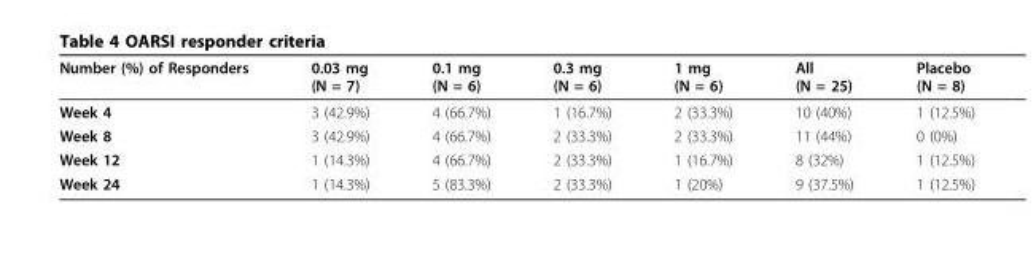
<table><thead><tr><td>Number (%) of Responders</td><td>0.03 mg (N = 7)</td><td>0.1 mg (N = 6)</td><td>0.3 mg (N = 6)</td><td>1 mg (N = 6)</td><td>All (N = 25)</td><td>Placebo (N = 8)</td></tr></thead><tbody><tr><td>Week 4</td><td>3 (42.9%)</td><td>4 (66.7%)</td><td>1 (16.7%)</td><td>2 (33.3%)</td><td>10 (40%)</td><td>1 (12.5%)</td></tr><tr><td>Week 8</td><td>3 (42.9%)</td><td>4 (66.7%)</td><td>2 (33.3%)</td><td>2 (33.3%)</td><td>11 (44%)</td><td>0 (0%)</td></tr><tr><td>Week 12</td><td>1 (14.3%)</td><td>4 (66.7%)</td><td>2 (33.3%)</td><td>1 (16.7%)</td><td>8 (32%)</td><td>1 (12.5%)</td></tr><tr><td>Week 24</td><td>1 (14.3%)</td><td>5 (83.3%)</td><td>2 (33.3%)</td><td>1 (20%)</td><td>9 (37.5%)</td><td>1 (12.5%)</td></tr></tbody></table>